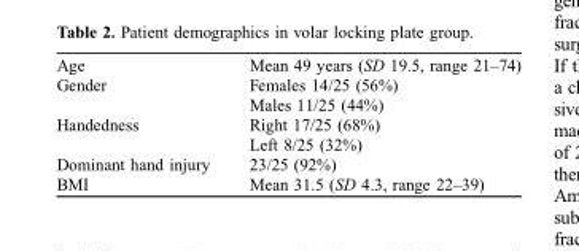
<table><tbody><tr><td>Age</td><td>Mean 49 years (SD 19.5, range 21–74)</td></tr><tr><td rowspan="2">Gender</td><td>Females 14/25 (56%)</td></tr><tr><td>Males 11/25 (44%)</td></tr><tr><td rowspan="2">Handedness</td><td>Right 17/25 (68%)</td></tr><tr><td>Left 8/25 (32%)</td></tr><tr><td>Dominant hand injury</td><td>23/25 (92%)</td></tr><tr><td>BMI</td><td>Mean 31.5 (SD 4.3, range 22–39)</td></tr></tbody></table>